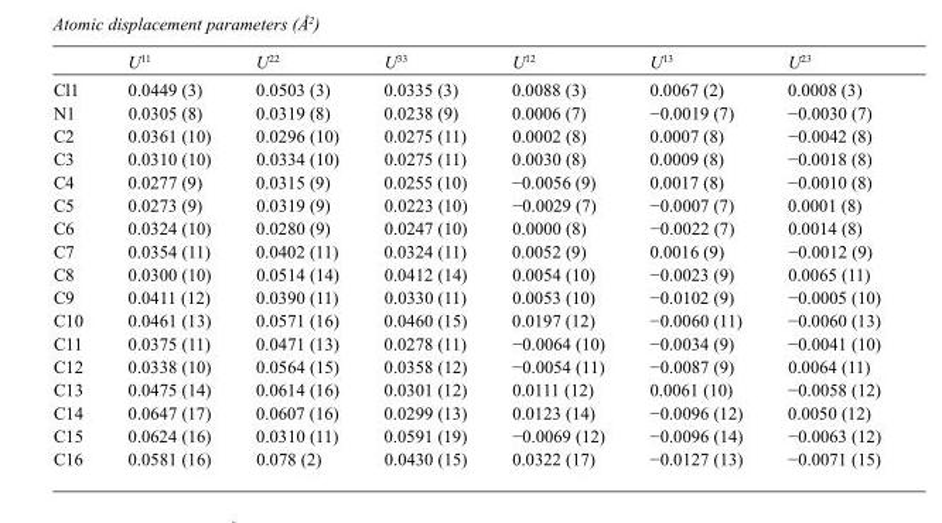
<table><thead><tr><td></td><td>U<sup>11</sup></td><td>U<sup>22</sup></td><td>U<sup>33</sup></td><td>U<sup>12</sup></td><td>U<sup>13</sup></td><td>U<sup>23</sup></td></tr></thead><tbody><tr><td>Cl1</td><td>0.0449 (3)</td><td>0.0503 (3)</td><td>0.0335 (3)</td><td>0.0088 (3)</td><td>0.0067 (2)</td><td>0.0008 (3)</td></tr><tr><td>N1</td><td>0.0305 (8)</td><td>0.0319 (8)</td><td>0.0238 (9)</td><td>0.0006 (7)</td><td>−0.0019 (7)</td><td>−0.0030 (7)</td></tr><tr><td>C2</td><td>0.0361 (10)</td><td>0.0296 (10)</td><td>0.0275 (11)</td><td>0.0002 (8)</td><td>0.0007 (8)</td><td>−0.0042 (8)</td></tr><tr><td>C3</td><td>0.0310 (10)</td><td>0.0334 (10)</td><td>0.0275 (11)</td><td>0.0030 (8)</td><td>0.0009 (8)</td><td>−0.0018 (8)</td></tr><tr><td>C4</td><td>0.0277 (9)</td><td>0.0315 (9)</td><td>0.0255 (10)</td><td>−0.0056 (9)</td><td>0.0017 (8)</td><td>−0.0010 (8)</td></tr><tr><td>C5</td><td>0.0273 (9)</td><td>0.0319 (9)</td><td>0.0223 (10)</td><td>−0.0029 (7)</td><td>−0.0007 (7)</td><td>0.0001 (8)</td></tr><tr><td>C6</td><td>0.0324 (10)</td><td>0.0280 (9)</td><td>0.0247 (10)</td><td>0.0000 (8)</td><td>−0.0022 (7)</td><td>0.0014 (8)</td></tr><tr><td>C7</td><td>0.0354 (11)</td><td>0.0402 (11)</td><td>0.0324 (11)</td><td>0.0052 (9)</td><td>0.0016 (9)</td><td>−0.0012 (9)</td></tr><tr><td>C8</td><td>0.0300 (10)</td><td>0.0514 (14)</td><td>0.0412 (14)</td><td>0.0054 (10)</td><td>−0.0023 (9)</td><td>0.0065 (11)</td></tr><tr><td>C9</td><td>0.0411 (12)</td><td>0.0390 (11)</td><td>0.0330 (11)</td><td>0.0053 (10)</td><td>−0.0102 (9)</td><td>−0.0005 (10)</td></tr><tr><td>C10</td><td>0.0461 (13)</td><td>0.0571 (16)</td><td>0.0460 (15)</td><td>0.0197 (12)</td><td>−0.0060 (11)</td><td>−0.0060 (13)</td></tr><tr><td>C11</td><td>0.0375 (11)</td><td>0.0471 (13)</td><td>0.0278 (11)</td><td>−0.0064 (10)</td><td>−0.0034 (9)</td><td>−0.0041 (10)</td></tr><tr><td>C12</td><td>0.0338 (10)</td><td>0.0564 (15)</td><td>0.0358 (12)</td><td>−0.0054 (11)</td><td>−0.0087 (9)</td><td>0.0064 (11)</td></tr><tr><td>C13</td><td>0.0475 (14)</td><td>0.0614 (16)</td><td>0.0301 (12)</td><td>0.0111 (12)</td><td>0.0061 (10)</td><td>−0.0058 (12)</td></tr><tr><td>C14</td><td>0.0647 (17)</td><td>0.0607 (16)</td><td>0.0299 (13)</td><td>0.0123 (14)</td><td>−0.0096 (12)</td><td>0.0050 (12)</td></tr><tr><td>C15</td><td>0.0624 (16)</td><td>0.0310 (11)</td><td>0.0591 (19)</td><td>−0.0069 (12)</td><td>−0.0096 (14)</td><td>−0.0063 (12)</td></tr><tr><td>C16</td><td>0.0581 (16)</td><td>0.078 (2)</td><td>0.0430 (15)</td><td>0.0322 (17)</td><td>−0.0127 (13)</td><td>−0.0071 (15)</td></tr></tbody></table>